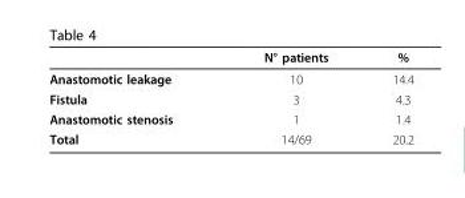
<table><thead><tr><td></td><td>N° patients</td><td>%</td></tr></thead><tbody><tr><td>Anastomotic leakage</td><td>10</td><td>14.4</td></tr><tr><td>Fistula</td><td>3</td><td>4.3</td></tr><tr><td>Anastomotic stenosis</td><td>1</td><td>1.4</td></tr><tr><td>Total</td><td>14/69</td><td>20.2</td></tr></tbody></table>